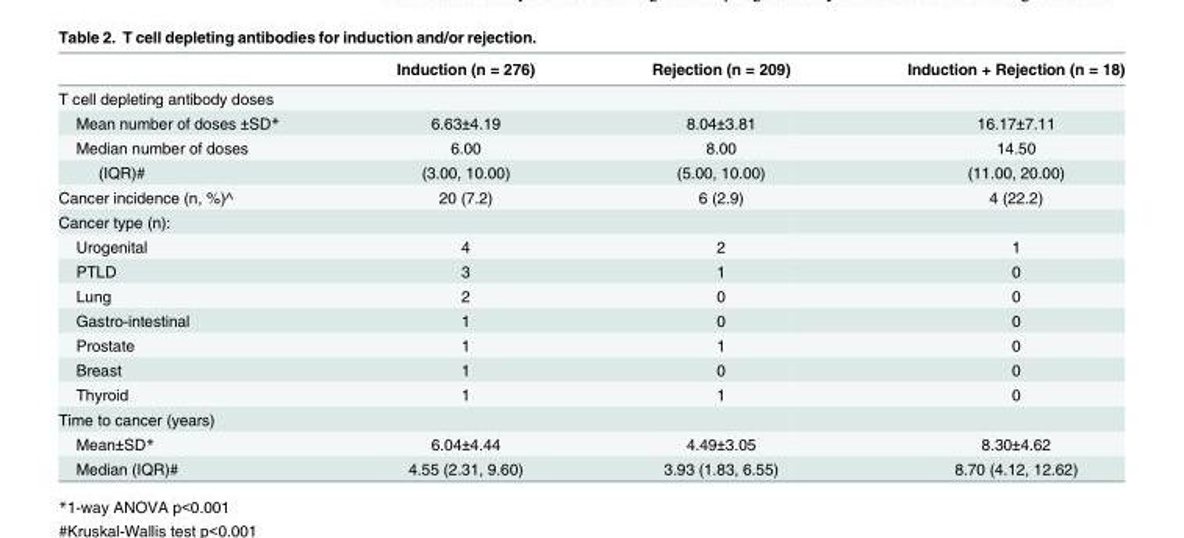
<table><thead><tr><td></td><td>Induction (n = 276)</td><td>Rejection (n = 209)</td><td>Induction + Rejection (n = 18)</td></tr></thead><tbody><tr><td colspan="4">T cell depleting antibody doses</td></tr><tr><td>Mean number of doses ±SD*</td><td>6.63±4.19</td><td>8.04±3.81</td><td>16.17±7.11</td></tr><tr><td>Median number of doses</td><td>6.00</td><td>8.00</td><td>14.50</td></tr><tr><td>(IQR)#</td><td>(3.00, 10.00)</td><td>(5.00, 10.00)</td><td>(11.00, 20.00)</td></tr><tr><td>Cancer incidence (n, %)^</td><td>20 (7.2)</td><td>6 (2.9)</td><td>4 (22.2)</td></tr><tr><td colspan="4">Cancer type (n):</td></tr><tr><td>Urogenital</td><td>4</td><td>2</td><td>1</td></tr><tr><td>PTLD</td><td>3</td><td>1</td><td>0</td></tr><tr><td>Lung</td><td>2</td><td>0</td><td>0</td></tr><tr><td>Gastro-intestinal</td><td>1</td><td>0</td><td>0</td></tr><tr><td>Prostate</td><td>1</td><td>1</td><td>0</td></tr><tr><td>Breast</td><td>1</td><td>0</td><td>0</td></tr><tr><td>Thyroid</td><td>1</td><td>1</td><td>0</td></tr><tr><td colspan="4">Time to cancer (years)</td></tr><tr><td>Mean±SD*</td><td>6.04±4.44</td><td>4.49±3.05</td><td>8.30±4.62</td></tr><tr><td>Median (IQR)#</td><td>4.55 (2.31, 9.60)</td><td>3.93 (1.83, 6.55)</td><td>8.70 (4.12, 12.62)</td></tr></tbody></table>